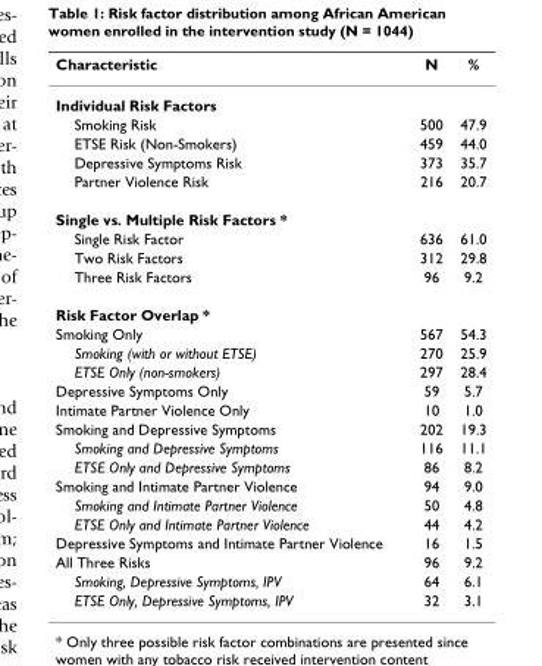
<table><thead><tr><td>Characteristic</td><td>N</td><td>%</td></tr></thead><tbody><tr><td colspan="3">Individual Risk Factors</td></tr><tr><td>Smoking Risk</td><td>500</td><td>47.9</td></tr><tr><td>ETSE Risk (Non-Smokers)</td><td>459</td><td>44.0</td></tr><tr><td>Depressive Symptoms Risk</td><td>373</td><td>35.7</td></tr><tr><td>Partner Violence Risk</td><td>216</td><td>20.7</td></tr><tr><td colspan="3">Single vs. Multiple Risk Factors *</td></tr><tr><td>Single Risk Factor</td><td>636</td><td>61.0</td></tr><tr><td>Two Risk Factors</td><td>312</td><td>29.8</td></tr><tr><td>Three Risk Factors</td><td>96</td><td>9.2</td></tr><tr><td colspan="3">Risk Factor Overlap *</td></tr><tr><td>Smoking Only</td><td>567</td><td>54.3</td></tr><tr><td>Smoking (with or without ETSE)</td><td>270</td><td>25.9</td></tr><tr><td>ETSE Only (non-smokers)</td><td>297</td><td>28.4</td></tr><tr><td>Depressive Symptoms Only</td><td>59</td><td>5.7</td></tr><tr><td>Intimate Partner Violence Only</td><td>10</td><td>1.0</td></tr><tr><td>Smoking and Depressive Symptoms</td><td>202</td><td>19.3</td></tr><tr><td>Smoking and Depressive Symptoms</td><td>116</td><td>11.1</td></tr><tr><td>ETSE Only and Depressive Symptoms</td><td>86</td><td>8.2</td></tr><tr><td>Smoking and Intimate Partner Violence</td><td>94</td><td>9.0</td></tr><tr><td>Smoking and Intimate Partner Violence</td><td>50</td><td>4.8</td></tr><tr><td>ETSE Only and Intimate Partner Violence</td><td>44</td><td>4.2</td></tr><tr><td>Depressive Symptoms and Intimate Partner Violence</td><td>16</td><td>1.5</td></tr><tr><td>All Three Risks</td><td>96</td><td>9.2</td></tr><tr><td>Smoking, Depressive Symptoms, IPV</td><td>64</td><td>6.1</td></tr><tr><td>ETSE Only, Depressive Symptoms, IPV</td><td>32</td><td>3.1</td></tr></tbody></table>